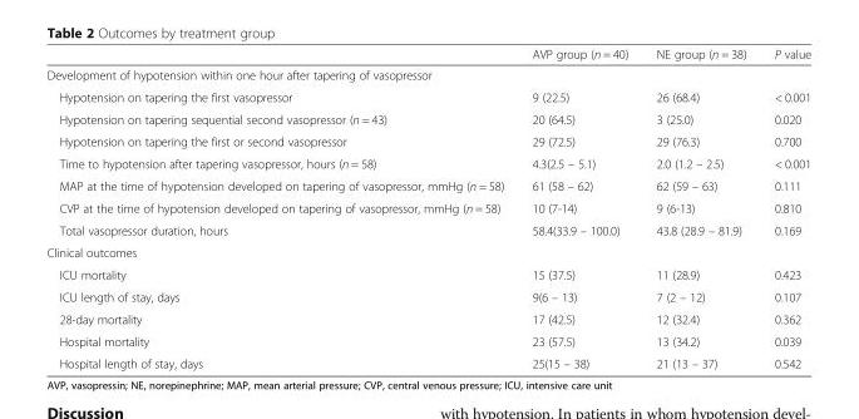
<table><thead><tr><td></td><td>AVP group (n = 40)</td><td>NE group (n = 38)</td><td>P value</td></tr></thead><tbody><tr><td colspan="4">Development of hypotension within one hour after tapering of vasopressor</td></tr><tr><td>Hypotension on tapering the first vasopressor</td><td>9 (22.5)</td><td>26 (68.4)</td><td>&lt; 0.001</td></tr><tr><td>Hypotension on tapering sequential second vasopressor (n = 43)</td><td>20 (64.5)</td><td>3 (25.0)</td><td>0.020</td></tr><tr><td>Hypotension on tapering the first or second vasopressor</td><td>29 (72.5)</td><td>29 (76.3)</td><td>0.700</td></tr><tr><td>Time to hypotension after tapering vasopressor, hours (n = 58)</td><td>4.3(2.5 – 5.1)</td><td>2.0 (1.2 – 2.5)</td><td>&lt; 0.001</td></tr><tr><td>MAP at the time of hypotension developed on tapering of vasopressor, mmHg (n = 58)</td><td>61 (58 – 62)</td><td>62 (59 – 63)</td><td>0.111</td></tr><tr><td>CVP at the time of hypotension developed on tapering of vasopressor, mmHg (n = 58)</td><td>10 (7-14)</td><td>9 (6-13)</td><td>0.810</td></tr><tr><td>Total vasopressor duration, hours</td><td>58.4(33.9 – 100.0)</td><td>43.8 (28.9 – 81.9)</td><td>0.169</td></tr><tr><td colspan="4">Clinical outcomes</td></tr><tr><td>ICU mortality</td><td>15 (37.5)</td><td>11 (28.9)</td><td>0.423</td></tr><tr><td>ICU length of stay, days</td><td>9(6 – 13)</td><td>7 (2 – 12)</td><td>0.107</td></tr><tr><td>28-day mortality</td><td>17 (42.5)</td><td>12 (32.4)</td><td>0.362</td></tr><tr><td>Hospital mortality</td><td>23 (57.5)</td><td>13 (34.2)</td><td>0.039</td></tr><tr><td>Hospital length of stay, days</td><td>25(15 – 38)</td><td>21 (13 – 37)</td><td>0.542</td></tr></tbody></table>